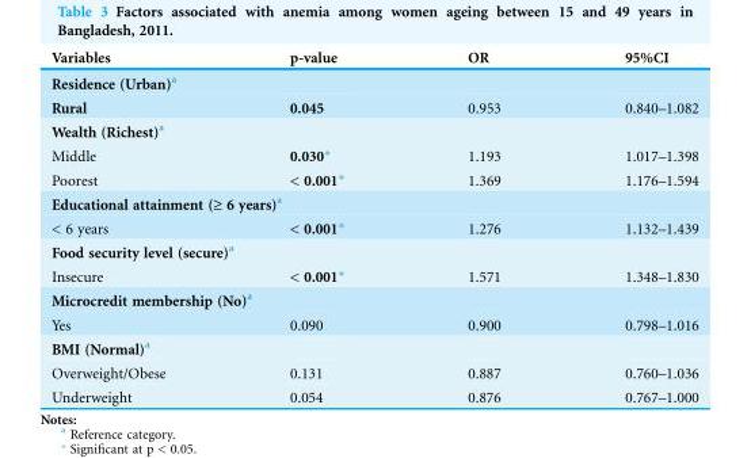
<table><thead><tr><td>Variables</td><td>p-value</td><td>OR</td><td>95%CI</td></tr></thead><tbody><tr><td colspan="4">Residence (Urban)<sup>a</sup></td></tr><tr><td>Rural</td><td>0.045</td><td>0.953</td><td>0.840–1.082</td></tr><tr><td colspan="4">Wealth (Richest)<sup>a</sup></td></tr><tr><td>Middle</td><td>0.030*</td><td>1.193</td><td>1.017–1.398</td></tr><tr><td>Poorest</td><td>&lt; 0.001*</td><td>1.369</td><td>1.176–1.594</td></tr><tr><td colspan="4">Educational attainment (‡ 6 years)a</td></tr><tr><td>&lt; 6 years</td><td>&lt; 0.001*</td><td>1.276</td><td>1.132–1.439</td></tr><tr><td colspan="4">Food security level (secure)<sup>a</sup></td></tr><tr><td>Insecure</td><td>&lt; 0.001*</td><td>1.571</td><td>1.348–1.830</td></tr><tr><td colspan="4">Microcredit membership (No)<sup>a</sup></td></tr><tr><td>Yes</td><td>0.090</td><td>0.900</td><td>0.798–1.016</td></tr><tr><td colspan="4">BMI (Normal)<sup>a</sup></td></tr><tr><td>Overweight/Obese</td><td>0.131</td><td>0.887</td><td>0.760–1.036</td></tr><tr><td>Underweight</td><td>0.054</td><td>0.876</td><td>0.767–1.000</td></tr></tbody></table>